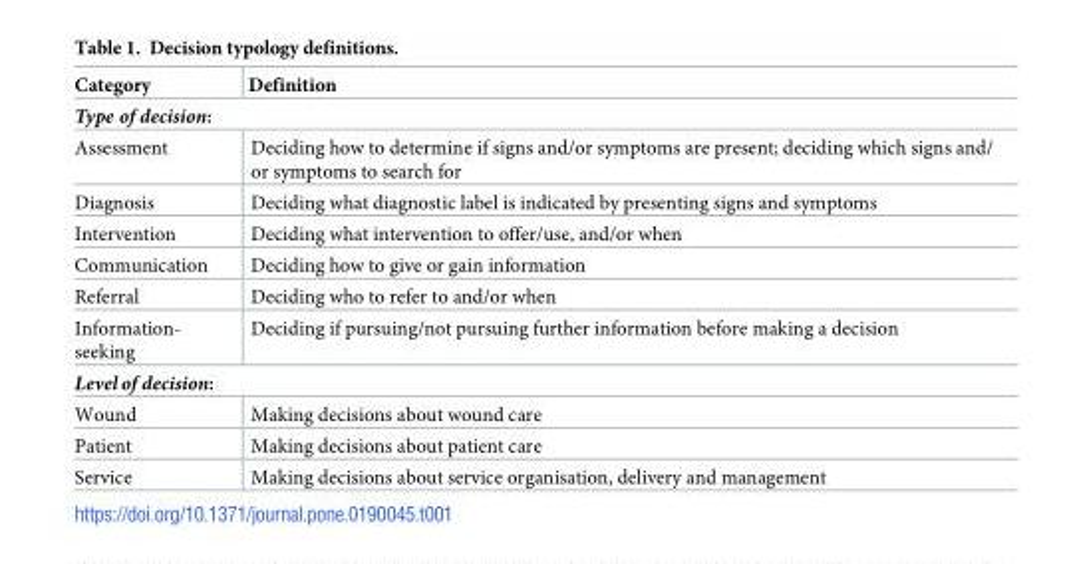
<table><thead><tr><td>Category</td><td>Definition</td></tr></thead><tbody><tr><td colspan="2">Type of decision:</td></tr><tr><td>Assessment</td><td>Deciding how to determine if signs and/or symptoms are present; deciding which signs and/ or symptoms to search for</td></tr><tr><td>Diagnosis</td><td>Deciding what diagnostic label is indicated by presenting signs and symptoms</td></tr><tr><td>Intervention</td><td>Deciding what intervention to offer/use, and/or when</td></tr><tr><td>Communication</td><td>Deciding how to give or gain information</td></tr><tr><td>Referral</td><td>Deciding who to refer to and/or when</td></tr><tr><td>Information- seeking</td><td>Deciding if pursuing/not pursuing further information before making a decision</td></tr><tr><td colspan="2">Level of decision:</td></tr><tr><td>Wound</td><td>Making decisions about wound care</td></tr><tr><td>Patient</td><td>Making decisions about patient care</td></tr><tr><td>Service</td><td>Making decisions about service organisation, delivery and management</td></tr></tbody></table>